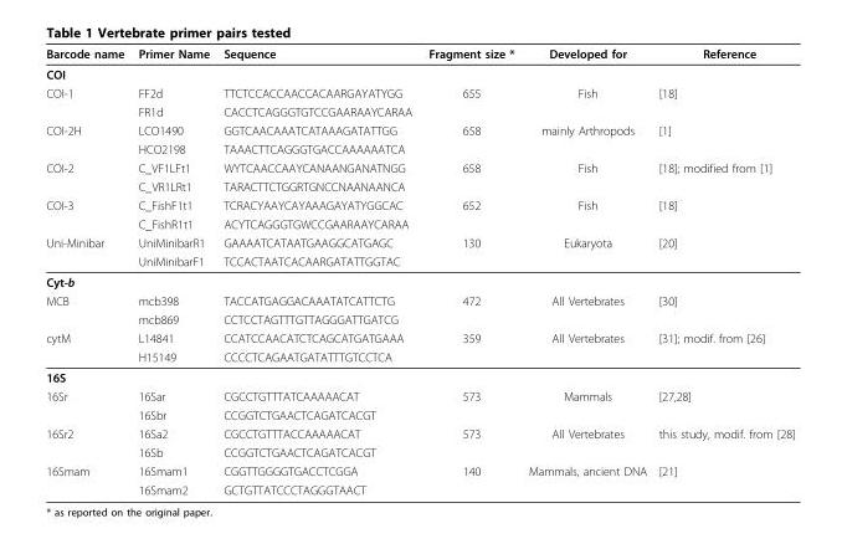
<table><thead><tr><td>Barcode name</td><td>Primer Name</td><td>Sequence</td><td>Fragment size *</td><td>Developed for</td><td>Reference</td></tr></thead><tbody><tr><td colspan="6">COI</td></tr><tr><td rowspan="2">COI-1</td><td>FF2d</td><td>TTCTCCACCAACCACAARGAYATYGG</td><td>655</td><td>Fish</td><td>[18]</td></tr><tr><td>FR1d</td><td>CACCTCAGGGTGTCCGAARAAYCARAA</td><td></td><td></td><td></td></tr><tr><td rowspan="2">COI-2H</td><td>LCO1490</td><td>GGTCAACAAATCATAAAGATATTGG</td><td>658</td><td>mainly Arthropods</td><td>[1]</td></tr><tr><td>HCO2198</td><td>TAAACTTCAGGGTGACCAAAAAATCA</td><td></td><td></td><td></td></tr><tr><td rowspan="2">COI-2</td><td>C_VF1LFt1</td><td>WYTCAACCAAYCANAANGANATNGG</td><td>658</td><td>Fish</td><td>[18]; modified from [1]</td></tr><tr><td>C_VR1LRt1</td><td>TARACTTCTGGRTGNCCNAANAANCA</td><td></td><td></td><td></td></tr><tr><td rowspan="2">COI-3</td><td>C_FishF1t1</td><td>TCRACYAAYCAYAAAGAYATYGGCAC</td><td>652</td><td>Fish</td><td>[18]</td></tr><tr><td>C_FishR1t1</td><td>ACYTCAGGGTGWCCGAARAAYCARAA</td><td></td><td></td><td></td></tr><tr><td rowspan="2">Uni-Minibar</td><td>UniMinibarR1</td><td>GAAAATCATAATGAAGGCATGAGC</td><td>130</td><td>Eukaryota</td><td>[20]</td></tr><tr><td>UniMinibarF1</td><td>TCCACTAATCACAARGATATTGGTAC</td><td></td><td></td><td></td></tr><tr><td colspan="6">Cyt-b</td></tr><tr><td rowspan="2">MCB</td><td>mcb398</td><td>TACCATGAGGACAAATATCATTCTG</td><td>472</td><td>All Vertebrates</td><td>[30]</td></tr><tr><td>mcb869</td><td>CCTCCTAGTTTGTTAGGGATTGATCG</td><td></td><td></td><td></td></tr><tr><td rowspan="2">cytM</td><td>L14841</td><td>CCATCCAACATCTCAGCATGATGAAA</td><td>359</td><td>All Vertebrates</td><td>[31]; modif. from [26]</td></tr><tr><td>H15149</td><td>CCCCTCAGAATGATATTTGTCCTCA</td><td></td><td></td><td></td></tr><tr><td colspan="6">16S</td></tr><tr><td rowspan="2">16Sr</td><td>16Sar</td><td>CGCCTGTTTATCAAAAACAT</td><td>573</td><td>Mammals</td><td>[27,28]</td></tr><tr><td>16Sbr</td><td>CCGGTCTGAACTCAGATCACGT</td><td></td><td></td><td></td></tr><tr><td rowspan="2">16Sr2</td><td>16Sa2</td><td>CGCCTGTTTACCAAAAACAT</td><td>573</td><td>All Vertebrates</td><td>this study, modif. from [28]</td></tr><tr><td>16Sb</td><td>CCGGTCTGAACTCAGATCACGT</td><td></td><td></td><td></td></tr><tr><td rowspan="2">16Smam</td><td>16Smam1</td><td>CGGTTGGGGTGACCTCGGA</td><td>140</td><td>Mammals, ancient DNA</td><td>[21]</td></tr><tr><td>16Smam2</td><td>GCTGTTATCCCTAGGGTAACT</td><td></td><td></td><td></td></tr></tbody></table>